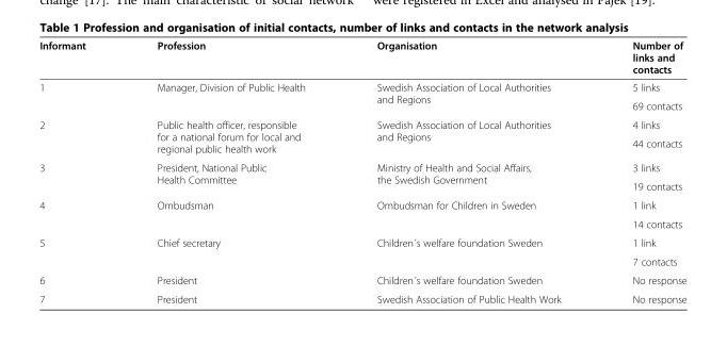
<table><thead><tr><td>Informant</td><td>Profession</td><td>Organisation</td><td>Number of links and contacts</td></tr></thead><tbody><tr><td rowspan="2">1</td><td rowspan="2">Manager, Division of Public Health</td><td rowspan="2">Swedish Association of Local Authorities and Regions</td><td>5 links</td></tr><tr><td>69 contacts</td></tr><tr><td rowspan="2">2</td><td rowspan="2">Public health officer, responsible for a national forum for local and regional public health work</td><td rowspan="2">Swedish Association of Local Authorities and Regions</td><td>4 links</td></tr><tr><td>44 contacts</td></tr><tr><td rowspan="2">3</td><td rowspan="2">President, National Public Health Committee</td><td rowspan="2">Ministry of Health and Social Affairs, the Swedish Government</td><td>3 links</td></tr><tr><td>19 contacts</td></tr><tr><td rowspan="2">4</td><td rowspan="2">Ombudsman</td><td rowspan="2">Ombudsman for Children in Sweden</td><td>1 link</td></tr><tr><td>14 contacts</td></tr><tr><td rowspan="2">5</td><td rowspan="2">Chief secretary</td><td rowspan="2">Children´s welfare foundation Sweden</td><td>1 link</td></tr><tr><td>7 contacts</td></tr><tr><td>6</td><td>President</td><td>Children´s welfare foundation Sweden</td><td>No response</td></tr><tr><td>7</td><td>President</td><td>Swedish Association of Public Health Work</td><td>No response</td></tr></tbody></table>